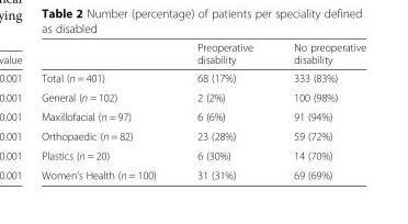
<table><thead><tr><td></td><td>Preoperative disability</td><td>No preoperative disability</td></tr></thead><tbody><tr><td>Total (n = 401)</td><td>68 (17%)</td><td>333 (83%)</td></tr><tr><td>General (n = 102)</td><td>2 (2%)</td><td>100 (98%)</td></tr><tr><td>Maxillofacial (n = 97)</td><td>6 (6%)</td><td>91 (94%)</td></tr><tr><td>Orthopaedic (n = 82)</td><td>23 (28%)</td><td>59 (72%)</td></tr><tr><td>Plastics (n = 20)</td><td>6 (30%)</td><td>14 (70%)</td></tr><tr><td>Women’s Health (n = 100)</td><td>31 (31%)</td><td>69 (69%)</td></tr></tbody></table>